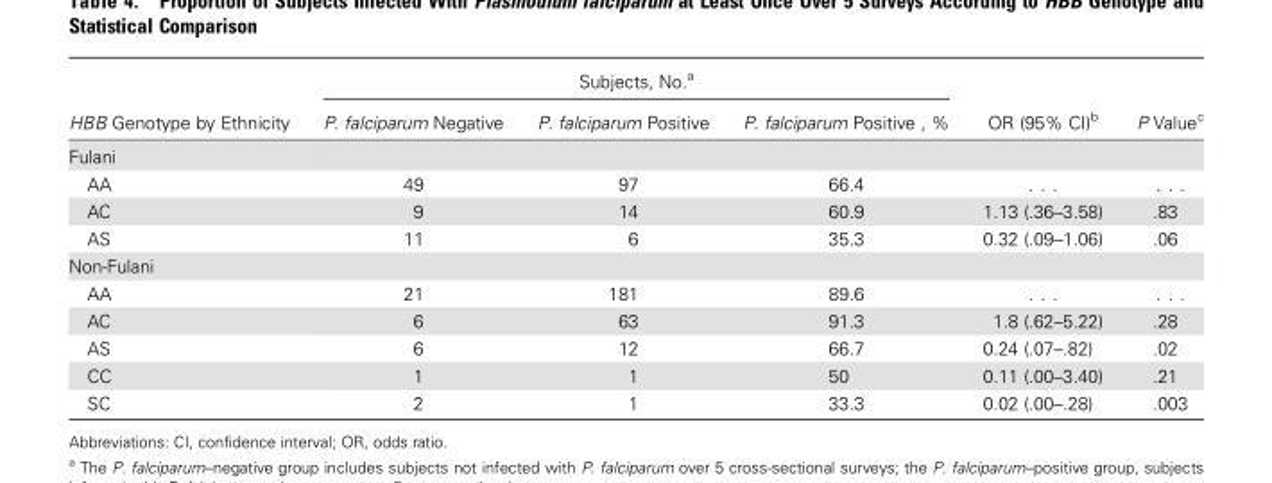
<table><thead><tr><td rowspan="2">HBB Genotype by Ethnicity</td><td colspan="3">Subjects, No.<sup>a</sup></td><td rowspan="2">OR (95% CI)<sup>b</sup></td><td rowspan="2">P Value<sup>c</sup></td></tr><tr><td>P. falciparum Negative</td><td>P. falciparum Positive</td><td>P. falciparum Positive , %</td></tr></thead><tbody><tr><td colspan="6">Fulani</td></tr><tr><td>AA</td><td>49</td><td>97</td><td>66.4</td><td>. . .</td><td>. . .</td></tr><tr><td>AC</td><td>9</td><td>14</td><td>60.9</td><td>1.13 (.36–3.58)</td><td>.83</td></tr><tr><td>AS</td><td>11</td><td>6</td><td>35.3</td><td>0.32 (.09–1.06)</td><td>.06</td></tr><tr><td colspan="6">Non-Fulani</td></tr><tr><td>AA</td><td>21</td><td>181</td><td>89.6</td><td>. . .</td><td>. . .</td></tr><tr><td>AC</td><td>6</td><td>63</td><td>91.3</td><td>1.8 (.62–5.22)</td><td>.28</td></tr><tr><td>AS</td><td>6</td><td>12</td><td>66.7</td><td>0.24 (.07–.82)</td><td>.02</td></tr><tr><td>CC</td><td>1</td><td>1</td><td>50</td><td>0.11 (.00–3.40)</td><td>.21</td></tr><tr><td>SC</td><td>2</td><td>1</td><td>33.3</td><td>0.02 (.00–.28)</td><td>.003</td></tr></tbody></table>